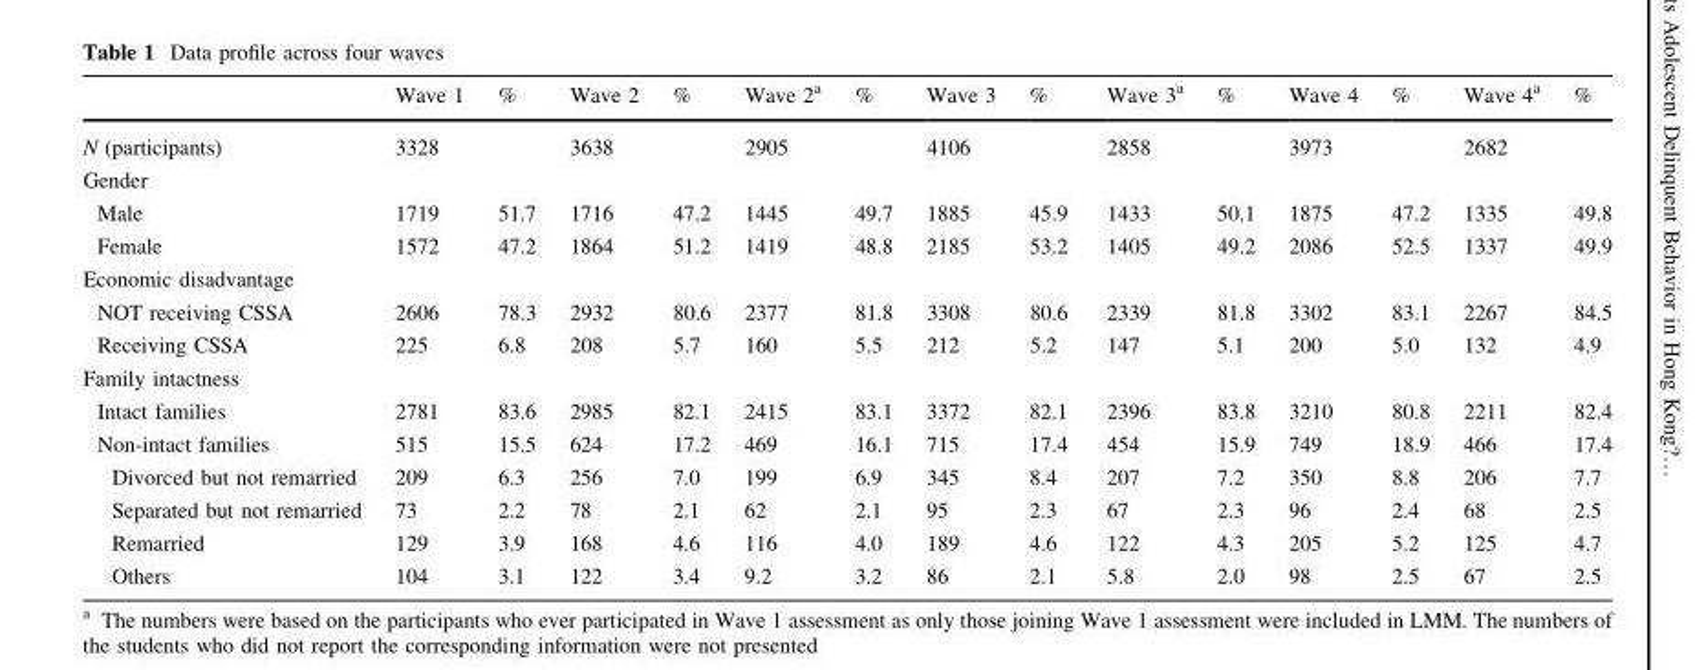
<table><thead><tr><td></td><td>Wave 1</td><td>%</td><td>Wave 2</td><td>%</td><td>Wave 2<sup>a</sup></td><td>%</td><td>Wave 3</td><td>%</td><td>Wave 3<sup>a</sup></td><td>%</td><td>Wave 4</td><td>%</td><td>Wave 4<sup>a</sup></td><td>%</td></tr></thead><tbody><tr><td>N (participants)</td><td>3328</td><td></td><td>3638</td><td></td><td>2905</td><td></td><td>4106</td><td></td><td>2858</td><td></td><td>3973</td><td></td><td>2682</td><td></td></tr><tr><td colspan="15">Gender</td></tr><tr><td>Male</td><td>1719</td><td>51.7</td><td>1716</td><td>47.2</td><td>1445</td><td>49.7</td><td>1885</td><td>45.9</td><td>1433</td><td>50.1</td><td>1875</td><td>47.2</td><td>1335</td><td>49.8</td></tr><tr><td>Female</td><td>1572</td><td>47.2</td><td>1864</td><td>51.2</td><td>1419</td><td>48.8</td><td>2185</td><td>53.2</td><td>1405</td><td>49.2</td><td>2086</td><td>52.5</td><td>1337</td><td>49.9</td></tr><tr><td colspan="15">Economic disadvantage</td></tr><tr><td>NOT receiving CSSA</td><td>2606</td><td>78.3</td><td>2932</td><td>80.6</td><td>2377</td><td>81.8</td><td>3308</td><td>80.6</td><td>2339</td><td>81.8</td><td>3302</td><td>83.1</td><td>2267</td><td>84.5</td></tr><tr><td>Receiving CSSA</td><td>225</td><td>6.8</td><td>208</td><td>5.7</td><td>160</td><td>5.5</td><td>212</td><td>5.2</td><td>147</td><td>5.1</td><td>200</td><td>5.0</td><td>132</td><td>4.9</td></tr><tr><td colspan="15">Family intactness</td></tr><tr><td>Intact families</td><td>2781</td><td>83.6</td><td>2985</td><td>82.1</td><td>2415</td><td>83.1</td><td>3372</td><td>82.1</td><td>2396</td><td>83.8</td><td>3210</td><td>80.8</td><td>2211</td><td>82.4</td></tr><tr><td>Non-intact families</td><td>515</td><td>15.5</td><td>624</td><td>17.2</td><td>469</td><td>16.1</td><td>715</td><td>17.4</td><td>454</td><td>15.9</td><td>749</td><td>18.9</td><td>466</td><td>17.4</td></tr><tr><td>Divorced but not remarried</td><td>209</td><td>6.3</td><td>256</td><td>7.0</td><td>199</td><td>6.9</td><td>345</td><td>8.4</td><td>207</td><td>7.2</td><td>350</td><td>8.8</td><td>206</td><td>7.7</td></tr><tr><td>Separated but not remarried</td><td>73</td><td>2.2</td><td>78</td><td>2.1</td><td>62</td><td>2.1</td><td>95</td><td>2.3</td><td>67</td><td>2.3</td><td>96</td><td>2.4</td><td>68</td><td>2.5</td></tr><tr><td>Remarried</td><td>129</td><td>3.9</td><td>168</td><td>4.6</td><td>116</td><td>4.0</td><td>189</td><td>4.6</td><td>122</td><td>4.3</td><td>205</td><td>5.2</td><td>125</td><td>4.7</td></tr><tr><td>Others</td><td>104</td><td>3.1</td><td>122</td><td>3.4</td><td>9.2</td><td>3.2</td><td>86</td><td>2.1</td><td>5.8</td><td>2.0</td><td>98</td><td>2.5</td><td>67</td><td>2.5</td></tr></tbody></table>